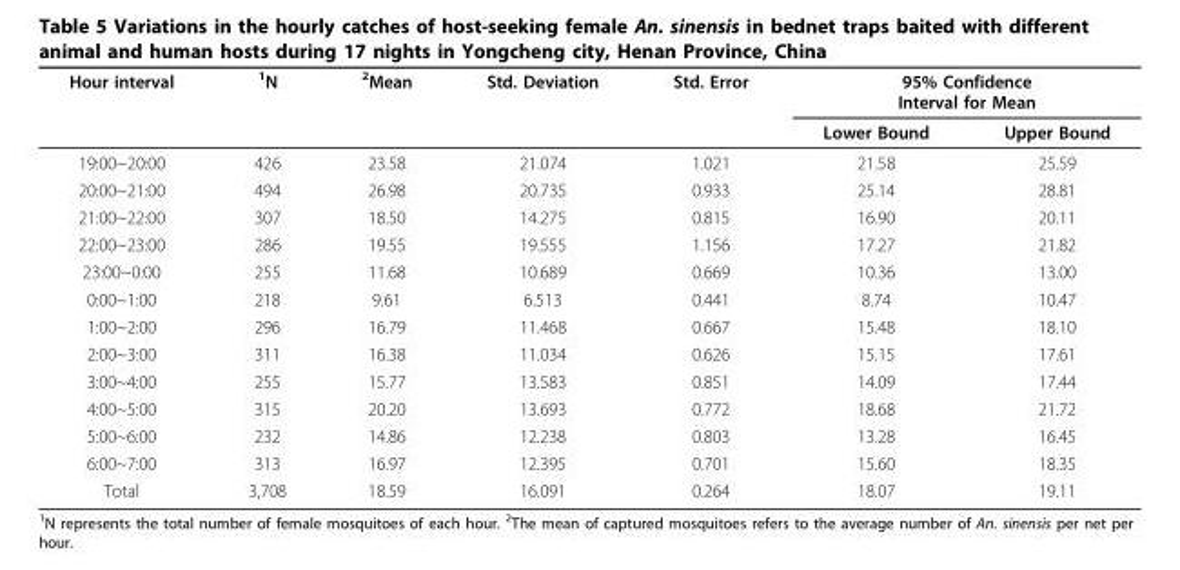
<table><thead><tr><td rowspan="2">Hour interval</td><td rowspan="2"><sup>1</sup>N</td><td rowspan="2"><sup>2</sup>Mean</td><td rowspan="2">Std. Deviation</td><td rowspan="2">Std. Error</td><td colspan="2">95% Confidence Interval for Mean</td></tr><tr><td>Lower Bound</td><td>Upper Bound</td></tr></thead><tbody><tr><td>19:00~20:00</td><td>426</td><td>23.58</td><td>21.074</td><td>1.021</td><td>21.58</td><td>25.59</td></tr><tr><td>20:00~21:00</td><td>494</td><td>26.98</td><td>20.735</td><td>0.933</td><td>25.14</td><td>28.81</td></tr><tr><td>21:00~22:00</td><td>307</td><td>18.50</td><td>14.275</td><td>0.815</td><td>16.90</td><td>20.11</td></tr><tr><td>22:00~23:00</td><td>286</td><td>19.55</td><td>19.555</td><td>1.156</td><td>17.27</td><td>21.82</td></tr><tr><td>23:00~0:00</td><td>255</td><td>11.68</td><td>10.689</td><td>0.669</td><td>10.36</td><td>13.00</td></tr><tr><td>0:00~1:00</td><td>218</td><td>9.61</td><td>6.513</td><td>0.441</td><td>8.74</td><td>10.47</td></tr><tr><td>1:00~2:00</td><td>296</td><td>16.79</td><td>11.468</td><td>0.667</td><td>15.48</td><td>18.10</td></tr><tr><td>2:00~3:00</td><td>311</td><td>16.38</td><td>11.034</td><td>0.626</td><td>15.15</td><td>17.61</td></tr><tr><td>3:00~4:00</td><td>255</td><td>15.77</td><td>13.583</td><td>0.851</td><td>14.09</td><td>17.44</td></tr><tr><td>4:00~5:00</td><td>315</td><td>20.20</td><td>13.693</td><td>0.772</td><td>18.68</td><td>21.72</td></tr><tr><td>5:00~6:00</td><td>232</td><td>14.86</td><td>12.238</td><td>0.803</td><td>13.28</td><td>16.45</td></tr><tr><td>6:00~7:00</td><td>313</td><td>16.97</td><td>12.395</td><td>0.701</td><td>15.60</td><td>18.35</td></tr><tr><td>Total</td><td>3,708</td><td>18.59</td><td>16.091</td><td>0.264</td><td>18.07</td><td>19.11</td></tr></tbody></table>